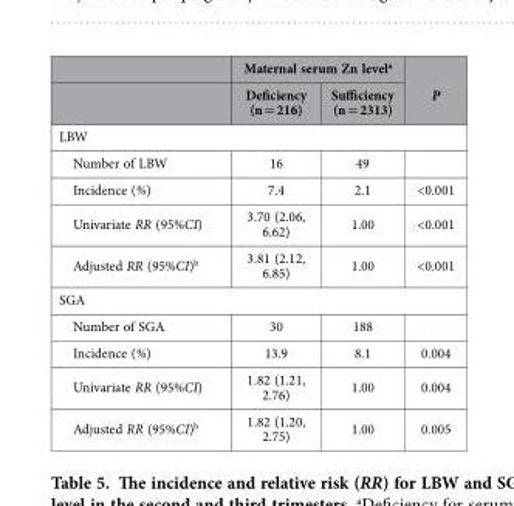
<table><thead><tr><td rowspan="2"></td><td colspan="2">Maternal serum Zn level<sup>a</sup></td><td rowspan="2">P</td></tr><tr><td>Deficiency (n = 216)</td><td>Sufficiency (n = 2313)</td></tr></thead><tbody><tr><td colspan="4">LBW</td></tr><tr><td>Number of LBW</td><td>16</td><td>49</td><td></td></tr><tr><td>Incidence (%)</td><td>7.4</td><td>2.1</td><td>&lt;0.001</td></tr><tr><td>Univariate RR (95%CI)</td><td>3.70 (2.06, 6.62)</td><td>1.00</td><td>&lt;0.001</td></tr><tr><td>Adjusted RR (95%CI)<sup>b</sup></td><td>3.81 (2.12, 6.85)</td><td>1.00</td><td>&lt;0.001</td></tr><tr><td colspan="4">SGA</td></tr><tr><td>Number of SGA</td><td>30</td><td>188</td><td></td></tr><tr><td>Incidence (%)</td><td>13.9</td><td>8.1</td><td>0.004</td></tr><tr><td>Univariate RR (95%CI)</td><td>1.82 (1.21, 2.76)</td><td>1.00</td><td>0.004</td></tr><tr><td>Adjusted RR (95%CI)<sup>b</sup></td><td>1.82 (1.20, 2.75)</td><td>1.00</td><td>0.005</td></tr></tbody></table>